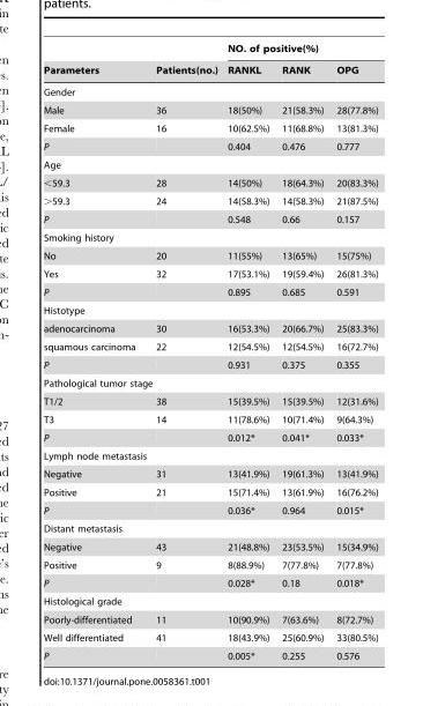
<table><thead><tr><td rowspan="2">Parameters</td><td rowspan="2">Patients(no.)</td><td colspan="3">NO. of positive(%)</td></tr><tr><td>RANKL</td><td>RANK</td><td>OPG</td></tr></thead><tbody><tr><td colspan="5">Gender</td></tr><tr><td>Male</td><td>36</td><td>18(50%)</td><td>21(58.3%)</td><td>28(77.8%)</td></tr><tr><td>Female</td><td>16</td><td>10(62.5%)</td><td>11(68.8%)</td><td>13(81.3%)</td></tr><tr><td>P</td><td></td><td>0.404</td><td>0.476</td><td>0.777</td></tr><tr><td colspan="5">Age</td></tr><tr><td>&lt;59.3</td><td>28</td><td>14(50%)</td><td>18(64.3%)</td><td>20(83.3%)</td></tr><tr><td>&gt;59.3</td><td>24</td><td>14(58.3%)</td><td>14(58.3%)</td><td>21(87.5%)</td></tr><tr><td>P</td><td></td><td>0.548</td><td>0.66</td><td>0.157</td></tr><tr><td colspan="5">Smoking history</td></tr><tr><td>No</td><td>20</td><td>11(55%)</td><td>13(65%)</td><td>15(75%)</td></tr><tr><td>Yes</td><td>32</td><td>17(53.1%)</td><td>19(59.4%)</td><td>26(81.3%)</td></tr><tr><td>P</td><td></td><td>0.895</td><td>0.685</td><td>0.591</td></tr><tr><td colspan="5">Histotype</td></tr><tr><td>adenocarcinoma</td><td>30</td><td>16(53.3%)</td><td>20(66.7%)</td><td>25(83.3%)</td></tr><tr><td>squamous carcinoma</td><td>22</td><td>12(54.5%)</td><td>12(54.5%)</td><td>16(72.7%)</td></tr><tr><td>P</td><td></td><td>0.931</td><td>0.375</td><td>0.355</td></tr><tr><td colspan="5">Pathological tumor stage</td></tr><tr><td>T1/2</td><td>38</td><td>15(39.5%)</td><td>15(39.5%)</td><td>12(31.6%)</td></tr><tr><td>T3</td><td>14</td><td>11(78.6%)</td><td>10(71.4%)</td><td>9(64.3%)</td></tr><tr><td>P</td><td></td><td>0.012*</td><td>0.041*</td><td>0.033*</td></tr><tr><td colspan="5">Lymph node metastasis</td></tr><tr><td>Negative</td><td>31</td><td>13(41.9%)</td><td>19(61.3%)</td><td>13(41.9%)</td></tr><tr><td>Positive</td><td>21</td><td>15(71.4%)</td><td>13(61.9%)</td><td>16(76.2%)</td></tr><tr><td>P</td><td></td><td>0.036*</td><td>0.964</td><td>0.015*</td></tr><tr><td colspan="5">Distant metastasis</td></tr><tr><td>Negative</td><td>43</td><td>21(48.8%)</td><td>23(53.5%)</td><td>15(34.9%)</td></tr><tr><td>Positive</td><td>9</td><td>8(88.9%)</td><td>7(77.8%)</td><td>7(77.8%)</td></tr><tr><td>P</td><td></td><td>0.028*</td><td>0.18</td><td>0.018*</td></tr><tr><td colspan="5">Histological grade</td></tr><tr><td>Poorly-differentiated</td><td>11</td><td>10(90.9%)</td><td>7(63.6%)</td><td>8(72.7%)</td></tr><tr><td>Well differentiated</td><td>41</td><td>18(43.9%)</td><td>25(60.9%)</td><td>33(80.5%)</td></tr><tr><td>P</td><td></td><td>0.005*</td><td>0.255</td><td>0.576</td></tr></tbody></table>